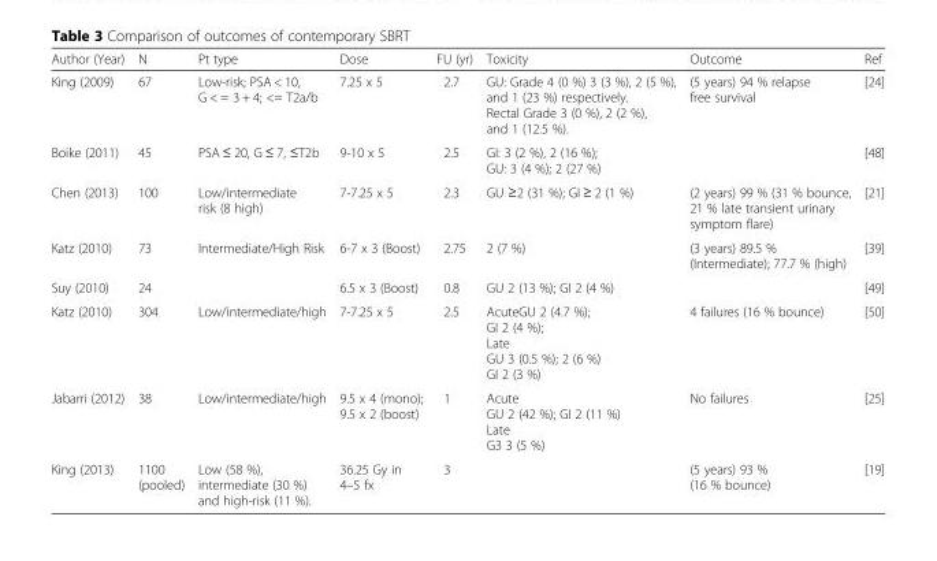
<table><thead><tr><td>Author (Year)</td><td>N</td><td>Pt type</td><td>Dose</td><td>FU (yr)</td><td>Toxicity</td><td>Outcome</td><td>Ref</td></tr></thead><tbody><tr><td>King (2009)</td><td>67</td><td>Low-risk; PSA &lt; 10, G &lt; = 3 + 4; &lt;= T2a/b</td><td>7.25 x 5</td><td>2.7</td><td>GU: Grade 4 (0 %) 3 (3 %), 2 (5 %), and 1 (23 %) respectively. Rectal Grade 3 (0 %), 2 (2 %), and 1 (12.5 %).</td><td>(5 years) 94 % relapse free survival</td><td>[24]</td></tr><tr><td>Boike (2011)</td><td>45</td><td>PSA ≤ 20, G ≤ 7, ≤T2b</td><td>9-10 x 5</td><td>2.5</td><td>GI: 3 (2 %), 2 (16 %); GU: 3 (4 %); 2 (27 %)</td><td></td><td>[48]</td></tr><tr><td>Chen (2013)</td><td>100</td><td>Low/intermediate risk (8 high)</td><td>7-7.25 x 5</td><td>2.3</td><td>GU ≥2 (31 %); GI ≥ 2 (1 %)</td><td>(2 years) 99 % (31 % bounce, 21 % late transient urinary symptom flare)</td><td>[21]</td></tr><tr><td>Katz (2010)</td><td>73</td><td>Intermediate/High Risk</td><td>6-7 x 3 (Boost)</td><td>2.75</td><td>2 (7 %)</td><td>(3 years) 89.5 % (Intermediate); 77.7 % (high)</td><td>[39]</td></tr><tr><td>Suy (2010)</td><td>24</td><td></td><td>6.5 x 3 (Boost)</td><td>0.8</td><td>GU 2 (13 %); GI 2 (4 %)</td><td></td><td>[49]</td></tr><tr><td>Katz (2010)</td><td>304</td><td>Low/intermediate/high</td><td>7-7.25 x 5</td><td>2.5</td><td>AcuteGU 2 (4.7 %); GI 2 (4 %); Late GU 3 (0.5 %); 2 (6 %) GI 2 (3 %)</td><td>4 failures (16 % bounce)</td><td>[50]</td></tr><tr><td>Jabarri (2012)</td><td>38</td><td>Low/intermediate/high</td><td>9.5 x 4 (mono); 9.5 x 2 (boost)</td><td>1</td><td>Acute GU 2 (42 %); GI 2 (11 %) Late G3 3 (5 %)</td><td>No failures</td><td>[25]</td></tr><tr><td>King (2013)</td><td>1100 (pooled)</td><td>Low (58 %), intermediate (30 %) and high-risk (11 %).</td><td>36.25 Gy in 4–5 fx</td><td>3</td><td></td><td>(5 years) 93 % (16 % bounce)</td><td>[19]</td></tr></tbody></table>